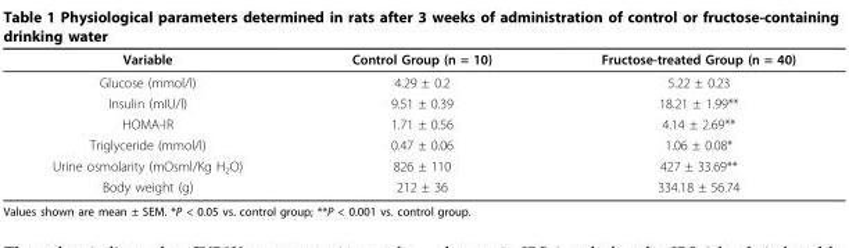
<table><thead><tr><td>Variable</td><td>Control Group (n = 10)</td><td>Fructose-treated Group (n = 40)</td></tr></thead><tbody><tr><td>Glucose (mmol/l)</td><td>4.29 ± 0.2</td><td>5.22 ± 0.23</td></tr><tr><td>Insulin (mIU/l)</td><td>9.51 ± 0.39</td><td>18.21 ± 1.99**</td></tr><tr><td>HOMA-IR</td><td>1.71 ± 0.56</td><td>4.14 ± 2.69**</td></tr><tr><td>Triglyceride (mmol/l)</td><td>0.47 ± 0.06</td><td>1.06 ± 0.08*</td></tr><tr><td>Urine osmolarity (mOsml/Kg H<sub>2</sub>O)</td><td>826 ± 110</td><td>427 ± 33.69**</td></tr><tr><td>Body weight (g)</td><td>212 ± 36</td><td>334.18 ± 56.74</td></tr></tbody></table>